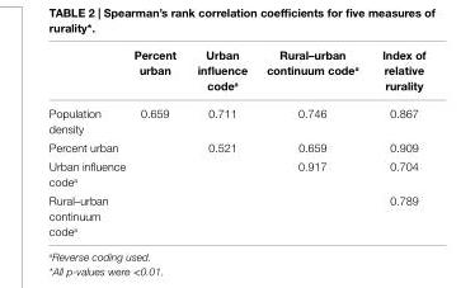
<table><thead><tr><td></td><td>Percent urban</td><td>Urban influence code<sup>a</sup></td><td>rural–urban continuum code<sup>a</sup></td><td>index of relative rurality</td></tr></thead><tbody><tr><td>Population density</td><td>0.659</td><td>0.711</td><td>0.746</td><td>0.867</td></tr><tr><td>Percent urban</td><td></td><td>0.521</td><td>0.659</td><td>0.909</td></tr><tr><td>Urban influence code<sup>a</sup></td><td></td><td></td><td>0.917</td><td>0.704</td></tr><tr><td>Rural–urban continuum code<sup>a</sup></td><td></td><td></td><td></td><td>0.789</td></tr></tbody></table>